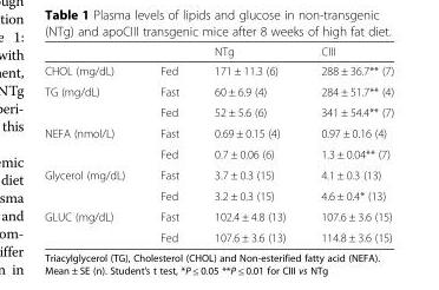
<table><thead><tr><td></td><td></td><td>NTg</td><td>CIII</td></tr></thead><tbody><tr><td>CHOL (mg/dL)</td><td>Fed</td><td>171 ± 11.3 (6)</td><td>288 ± 36.7** (7)</td></tr><tr><td rowspan="2">TG (mg/dL)</td><td>Fast</td><td>60 ± 6.9 (4)</td><td>284 ± 51.7** (4)</td></tr><tr><td>Fed</td><td>52 ± 5.6 (6)</td><td>341 ± 54.4** (7)</td></tr><tr><td rowspan="2">NEFA (nmol/L)</td><td>Fast</td><td>0.69 ± 0.15 (4)</td><td>0.97 ± 0.16 (4)</td></tr><tr><td>Fed</td><td>0.7 ± 0.06 (6)</td><td>1.3 ± 0.04** (7)</td></tr><tr><td rowspan="2">Glycerol (mg/dL)</td><td>Fast</td><td>3.7 ± 0.3 (15)</td><td>4.1 ± 0.3 (13)</td></tr><tr><td>Fed</td><td>3.2 ± 0.3 (15)</td><td>4.6 ± 0.4* (13)</td></tr><tr><td rowspan="2">GLUC (mg/dL)</td><td>Fast</td><td>102.4 ± 4.8 (13)</td><td>107.6 ± 3.6 (15)</td></tr><tr><td>Fed</td><td>107.6 ± 3.6 (13)</td><td>114.8 ± 3.6 (15)</td></tr></tbody></table>